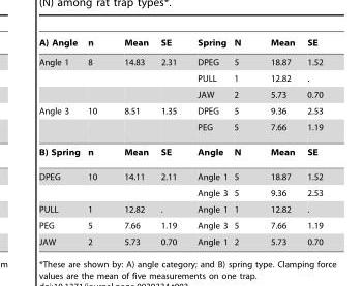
<table><thead><tr><td>A) Angle</td><td>n</td><td>Mean</td><td>SE</td><td>Spring</td><td>N</td><td>Mean</td><td>SE</td></tr></thead><tbody><tr><td rowspan="3">Angle 1</td><td>8</td><td>14.83</td><td>2.31</td><td>DPEG</td><td>5</td><td>18.87</td><td>1.52</td></tr><tr><td></td><td></td><td></td><td>PULL</td><td>1</td><td>12.82</td><td>.</td></tr><tr><td></td><td></td><td></td><td>JAW</td><td>2</td><td>5.73</td><td>0.70</td></tr><tr><td rowspan="2">Angle 3</td><td>10</td><td>8.51</td><td>1.35</td><td>DPEG</td><td>5</td><td>9.36</td><td>2.53</td></tr><tr><td></td><td></td><td></td><td>PEG</td><td>5</td><td>7.66</td><td>1.19</td></tr><tr><td>B) Spring</td><td>n</td><td>Mean</td><td>SE</td><td>Angle</td><td>N</td><td>Mean</td><td>SE</td></tr><tr><td rowspan="2">DPEG</td><td>10</td><td>14.11</td><td>2.11</td><td>Angle 1</td><td>5</td><td>18.87</td><td>1.52</td></tr><tr><td></td><td></td><td></td><td>Angle 3</td><td>5</td><td>9.36</td><td>2.53</td></tr><tr><td>PULL</td><td>1</td><td>12.82</td><td>.</td><td>Angle 1</td><td>1</td><td>12.82</td><td>.</td></tr><tr><td>PEG</td><td>5</td><td>7.66</td><td>1.19</td><td>Angle 3</td><td>5</td><td>7.66</td><td>1.19</td></tr><tr><td>JAW</td><td>2</td><td>5.73</td><td>0.70</td><td>Angle 1</td><td>2</td><td>5.73</td><td>0.70</td></tr></tbody></table>